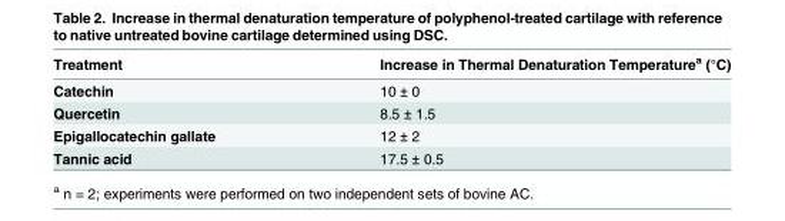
<table><thead><tr><td>Treatment</td><td>Increase in Thermal Denaturation Temperature<sup>a</sup> (°C)</td></tr></thead><tbody><tr><td>Catechin</td><td>10 ± 0</td></tr><tr><td>Quercetin</td><td>8.5 ± 1.5</td></tr><tr><td>Epigallocatechin gallate</td><td>12 ± 2</td></tr><tr><td>Tannic acid</td><td>17.5 ± 0.5</td></tr></tbody></table>